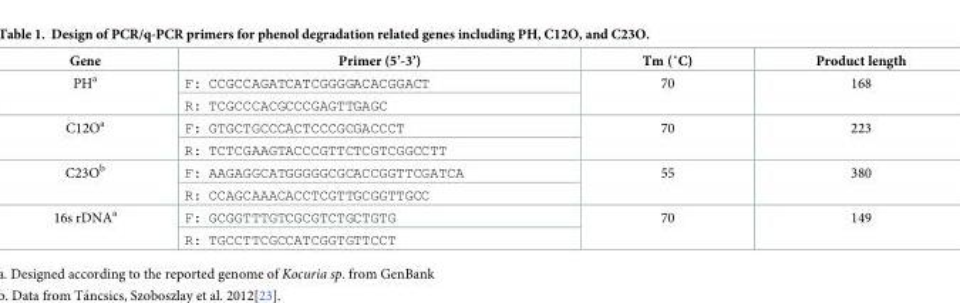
<table><thead><tr><td>Gene</td><td>Primer (5’-3’)</td><td>Tm (˚C)</td><td>Product length</td></tr></thead><tbody><tr><td rowspan="2">PH<sup>a</sup></td><td>F: CCGCCAGATCATCGGGGACACGGACT</td><td rowspan="2">70</td><td rowspan="2">168</td></tr><tr><td>R: TCGCCCACGCCCGAGTTGAGC</td></tr><tr><td rowspan="2">C12O<sup>a</sup></td><td>F: GTGCTGCCCACTCCCGCGACCCT</td><td rowspan="2">70</td><td rowspan="2">223</td></tr><tr><td>R: TCTCGAAGTACCCGTTCTCGTCGGCCTT</td></tr><tr><td rowspan="2">C23O<sup>b</sup></td><td>F: AAGAGGCATGGGGGCGCACCGGTTCGATCA</td><td rowspan="2">55</td><td rowspan="2">380</td></tr><tr><td>R: CCAGCAAACACCTCGTTGCGGTTGCC</td></tr><tr><td rowspan="2">16s rDNA<sup>a</sup></td><td>F: GCGGTTTGTCGCGTCTGCTGTG</td><td rowspan="2">70</td><td rowspan="2">149</td></tr><tr><td>R: TGCCTTCGCCATCGGTGTTCCT</td></tr></tbody></table>